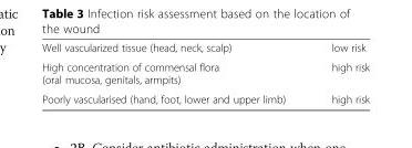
<table><tbody><tr><td>Well vascularized tissue (head, neck, scalp)</td><td>low risk</td></tr><tr><td>High concentration of commensal flora (oral mucosa, genitals, armpits)</td><td>high risk</td></tr><tr><td>Poorly vascularised (hand, foot, lower and upper limb)</td><td>high risk</td></tr></tbody></table>